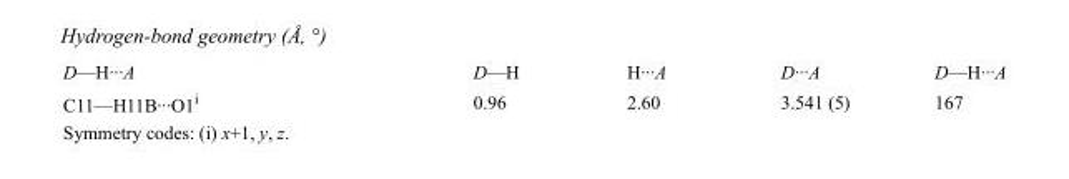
<table><tbody><tr><td>D—H···A</td><td>D—H</td><td>H···A</td><td>D···A</td><td>D—H···A</td></tr><tr><td>C11—H11B···O1<sup>i</sup></td><td>0.96</td><td>2.60</td><td>3.541 (5)</td><td>167</td></tr></tbody></table>